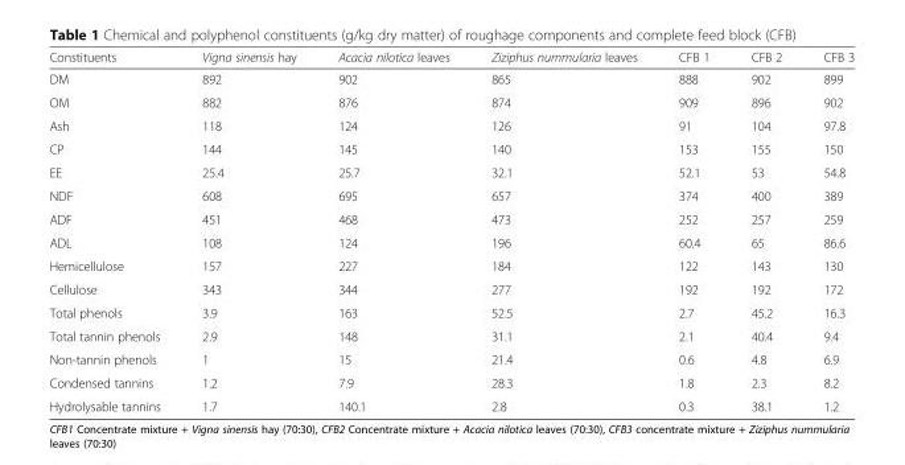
<table><thead><tr><td>Constituents</td><td>Vigna sinensis hay</td><td>Acacia nilotica leaves</td><td>Ziziphus nummularia leaves</td><td>CFB 1</td><td>CFB 2</td><td>CFB 3</td></tr></thead><tbody><tr><td>DM</td><td>892</td><td>902</td><td>865</td><td>888</td><td>902</td><td>899</td></tr><tr><td>OM</td><td>882</td><td>876</td><td>874</td><td>909</td><td>896</td><td>902</td></tr><tr><td>Ash</td><td>118</td><td>124</td><td>126</td><td>91</td><td>104</td><td>97.8</td></tr><tr><td>CP</td><td>144</td><td>145</td><td>140</td><td>153</td><td>155</td><td>150</td></tr><tr><td>EE</td><td>25.4</td><td>25.7</td><td>32.1</td><td>52.1</td><td>53</td><td>54.8</td></tr><tr><td>NDF</td><td>608</td><td>695</td><td>657</td><td>374</td><td>400</td><td>389</td></tr><tr><td>ADF</td><td>451</td><td>468</td><td>473</td><td>252</td><td>257</td><td>259</td></tr><tr><td>ADL</td><td>108</td><td>124</td><td>196</td><td>60.4</td><td>65</td><td>86.6</td></tr><tr><td>Hemicellulose</td><td>157</td><td>227</td><td>184</td><td>122</td><td>143</td><td>130</td></tr><tr><td>Cellulose</td><td>343</td><td>344</td><td>277</td><td>192</td><td>192</td><td>172</td></tr><tr><td>Total phenols</td><td>3.9</td><td>163</td><td>52.5</td><td>2.7</td><td>45.2</td><td>16.3</td></tr><tr><td>Total tannin phenols</td><td>2.9</td><td>148</td><td>31.1</td><td>2.1</td><td>40.4</td><td>9.4</td></tr><tr><td>Non-tannin phenols</td><td>1</td><td>15</td><td>21.4</td><td>0.6</td><td>4.8</td><td>6.9</td></tr><tr><td>Condensed tannins</td><td>1.2</td><td>7.9</td><td>28.3</td><td>1.8</td><td>2.3</td><td>8.2</td></tr><tr><td>Hydrolysable tannins</td><td>1.7</td><td>140.1</td><td>2.8</td><td>0.3</td><td>38.1</td><td>1.2</td></tr></tbody></table>